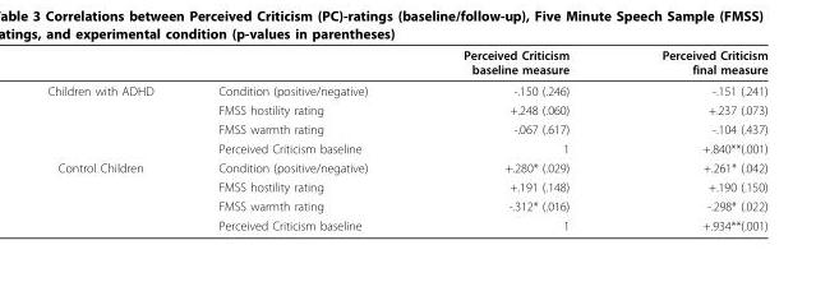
<table><thead><tr><td></td><td></td><td>Perceived Criticism baseline measure</td><td>Perceived Criticism final measure</td></tr></thead><tbody><tr><td rowspan="4">Children with ADHD</td><td>Condition (positive/negative)</td><td>-.150 (.246)</td><td>-.151 (.241)</td></tr><tr><td>FMSS hostility rating</td><td>+.248 (.060)</td><td>+.237 (.073)</td></tr><tr><td>FMSS warmth rating</td><td>-.067 (.617)</td><td>-.104 (.437)</td></tr><tr><td>Perceived Criticism baseline</td><td>1</td><td>+.840**(.001)</td></tr><tr><td rowspan="4">Control Children</td><td>Condition (positive/negative)</td><td>+.280* (.029)</td><td>+.261* (.042)</td></tr><tr><td>FMSS hostility rating</td><td>+.191 (.148)</td><td>+.190 (.150)</td></tr><tr><td>FMSS warmth rating</td><td>-.312* (.016)</td><td>-.298* (.022)</td></tr><tr><td>Perceived Criticism baseline</td><td>1</td><td>+.934**(.001)</td></tr></tbody></table>